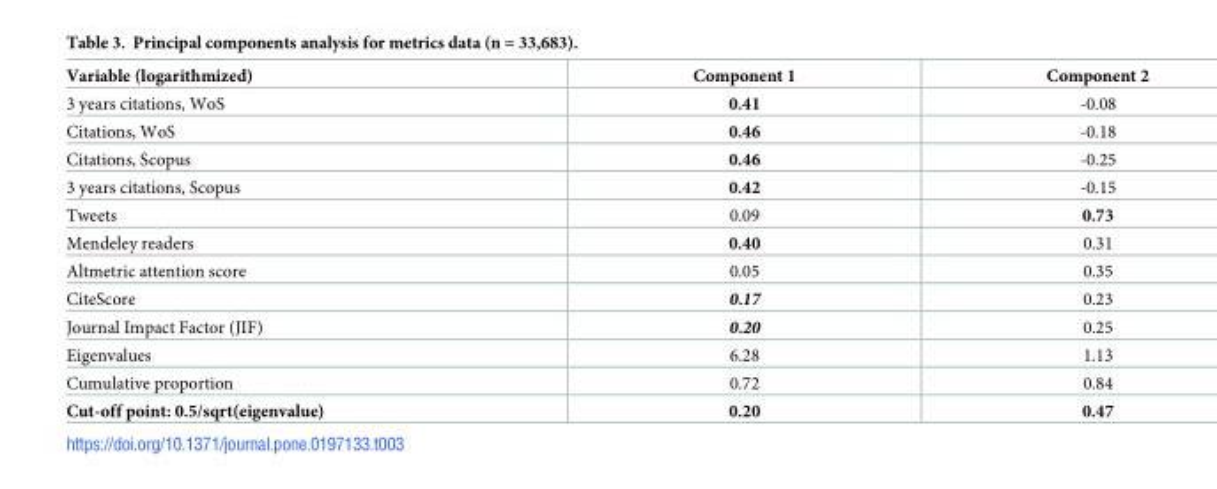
<table><thead><tr><td>Variable (logarithmized)</td><td>Component 1</td><td>Component 2</td></tr></thead><tbody><tr><td>3 years citations, WoS</td><td>0.41</td><td>-0.08</td></tr><tr><td>Citations, WoS</td><td>0.46</td><td>-0.18</td></tr><tr><td>Citations, Scopus</td><td>0.46</td><td>-0.25</td></tr><tr><td>3 years citations, Scopus</td><td>0.42</td><td>-0.15</td></tr><tr><td>Tweets</td><td>0.09</td><td>0.73</td></tr><tr><td>Mendeley readers</td><td>0.40</td><td>0.31</td></tr><tr><td>Altmetric attention score</td><td>0.05</td><td>0.35</td></tr><tr><td>CiteScore</td><td>0.17</td><td>0.23</td></tr><tr><td>Journal Impact Factor (JIF)</td><td>0.20</td><td>0.25</td></tr><tr><td>Eigenvalues</td><td>6.28</td><td>1.13</td></tr><tr><td>Cumulative proportion</td><td>0.72</td><td>0.84</td></tr><tr><td>Cut-off point: 0.5/sqrt(eigenvalue)</td><td>0.20</td><td>0.47</td></tr></tbody></table>